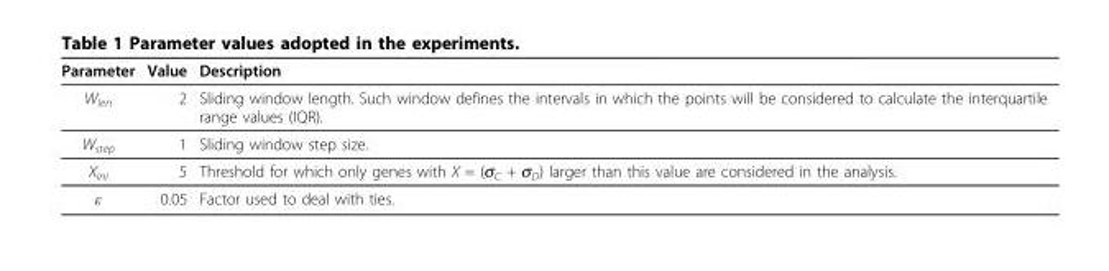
<table><thead><tr><td>Parameter</td><td>Value</td><td>Description</td></tr></thead><tbody><tr><td>W<sub>len</sub></td><td>2</td><td>Sliding window length. Such window defines the intervals in which the points will be considered to calculate the interquartile range values (IQR).</td></tr><tr><td>W<sub>step</sub></td><td>1</td><td>Sliding window step size.</td></tr><tr><td>X<sub>ini</sub></td><td>5</td><td>Threshold for which only genes with X = (σ<sub>C</sub> + σ<sub>D</sub>) larger than this value are considered in the analysis.</td></tr><tr><td>ε</td><td>0.05</td><td>Factor used to deal with ties.</td></tr></tbody></table>